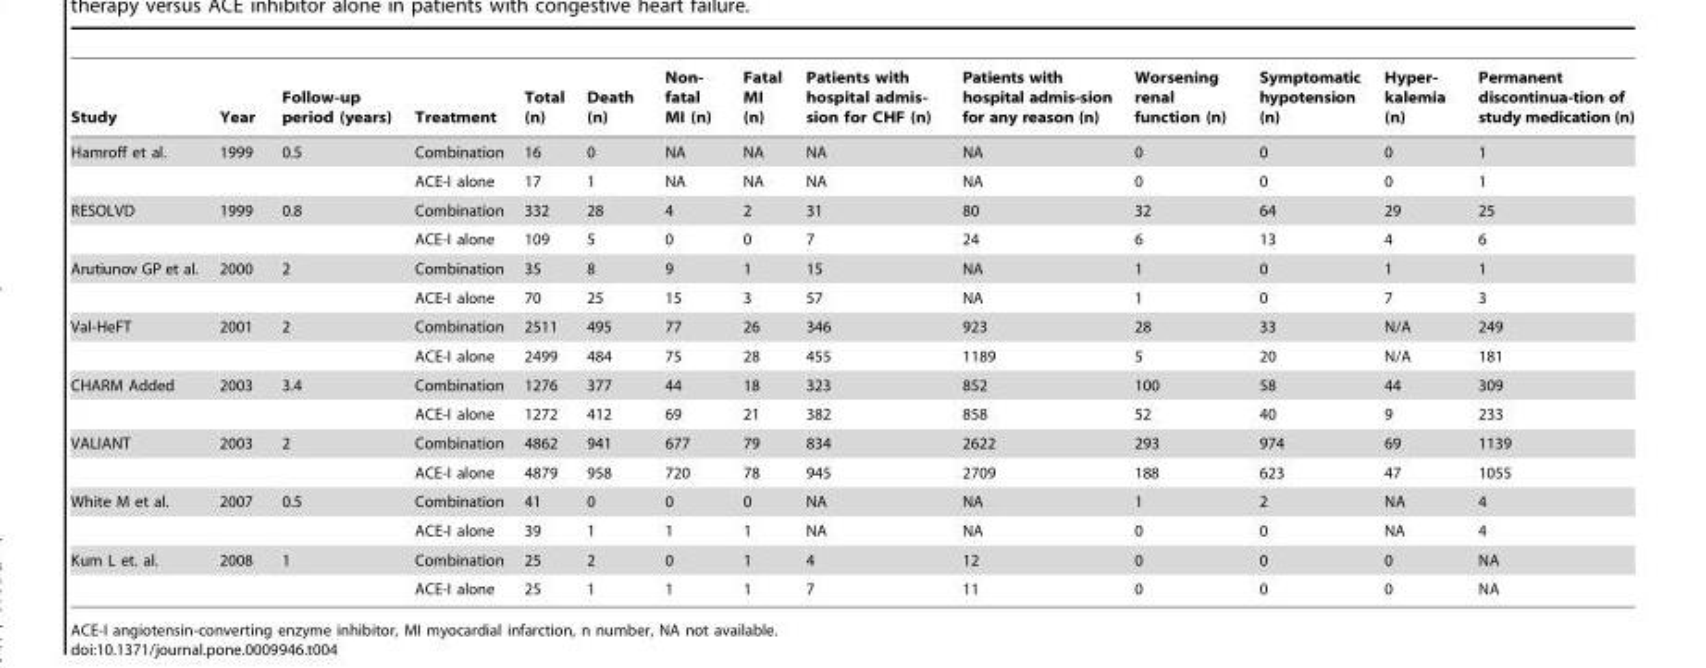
<table><thead><tr><td>Study</td><td>Year</td><td>Follow-up period (years)</td><td>Treatment</td><td>Total (n)</td><td>Death (n)</td><td>Non- fatal MI (n)</td><td>Fatal MI (n)</td><td>Patients with hospital admis- sion for CHF (n)</td><td>Patients with hospital admis-sion for any reason (n)</td><td>Worsening renal function (n)</td><td>Symptomatic hypotension (n)</td><td>Hyper- kalemia (n)</td><td>Permanent discontinua-tion of study medication (n)</td></tr></thead><tbody><tr><td rowspan="2">Hamroff et al.</td><td>1999</td><td>0.5</td><td>Combination</td><td>16</td><td>0</td><td>NA</td><td>NA</td><td>NA</td><td>NA</td><td>0</td><td>0</td><td>0</td><td>1</td></tr><tr><td></td><td></td><td>ACE-I alone</td><td>17</td><td>1</td><td>NA</td><td>NA</td><td>NA</td><td>NA</td><td>0</td><td>0</td><td>0</td><td>1</td></tr><tr><td rowspan="2">RESOLVD</td><td>1999</td><td>0.8</td><td>Combination</td><td>332</td><td>28</td><td>4</td><td>2</td><td>31</td><td>80</td><td>32</td><td>64</td><td>29</td><td>25</td></tr><tr><td></td><td></td><td>ACE-I alone</td><td>109</td><td>5</td><td>0</td><td>0</td><td>7</td><td>24</td><td>6</td><td>13</td><td>4</td><td>6</td></tr><tr><td rowspan="2">Arutiunov GP et al.</td><td>2000</td><td>2</td><td>Combination</td><td>35</td><td>8</td><td>9</td><td>1</td><td>15</td><td>NA</td><td>1</td><td>0</td><td>1</td><td>1</td></tr><tr><td></td><td></td><td>ACE-I alone</td><td>70</td><td>25</td><td>15</td><td>3</td><td>57</td><td>NA</td><td>1</td><td>0</td><td>7</td><td>3</td></tr><tr><td rowspan="2">Val-HeFT</td><td>2001</td><td>2</td><td>Combination</td><td>2511</td><td>495</td><td>77</td><td>26</td><td>346</td><td>923</td><td>28</td><td>33</td><td>N/A</td><td>249</td></tr><tr><td></td><td></td><td>ACE-I alone</td><td>2499</td><td>484</td><td>75</td><td>28</td><td>455</td><td>1189</td><td>5</td><td>20</td><td>N/A</td><td>181</td></tr><tr><td rowspan="2">CHARM Added</td><td>2003</td><td>3.4</td><td>Combination</td><td>1276</td><td>377</td><td>44</td><td>18</td><td>323</td><td>852</td><td>100</td><td>58</td><td>44</td><td>309</td></tr><tr><td></td><td></td><td>ACE-I alone</td><td>1272</td><td>412</td><td>69</td><td>21</td><td>382</td><td>858</td><td>52</td><td>40</td><td>9</td><td>233</td></tr><tr><td rowspan="2">VALIANT</td><td>2003</td><td>2</td><td>Combination</td><td>4862</td><td>941</td><td>677</td><td>79</td><td>834</td><td>2622</td><td>293</td><td>974</td><td>69</td><td>1139</td></tr><tr><td></td><td></td><td>ACE-I alone</td><td>4879</td><td>958</td><td>720</td><td>78</td><td>945</td><td>2709</td><td>188</td><td>623</td><td>47</td><td>1055</td></tr><tr><td rowspan="2">White M et al.</td><td>2007</td><td>0.5</td><td>Combination</td><td>41</td><td>0</td><td>0</td><td>0</td><td>NA</td><td>NA</td><td>1</td><td>2</td><td>NA</td><td>4</td></tr><tr><td></td><td></td><td>ACE-I alone</td><td>39</td><td>1</td><td>1</td><td>1</td><td>NA</td><td>NA</td><td>0</td><td>0</td><td>NA</td><td>4</td></tr><tr><td rowspan="2">Kum L et. al.</td><td>2008</td><td>1</td><td>Combination</td><td>25</td><td>2</td><td>0</td><td>1</td><td>4</td><td>12</td><td>0</td><td>0</td><td>0</td><td>NA</td></tr><tr><td></td><td></td><td>ACE-I alone</td><td>25</td><td>1</td><td>1</td><td>1</td><td>7</td><td>11</td><td>0</td><td>0</td><td>0</td><td>NA</td></tr></tbody></table>